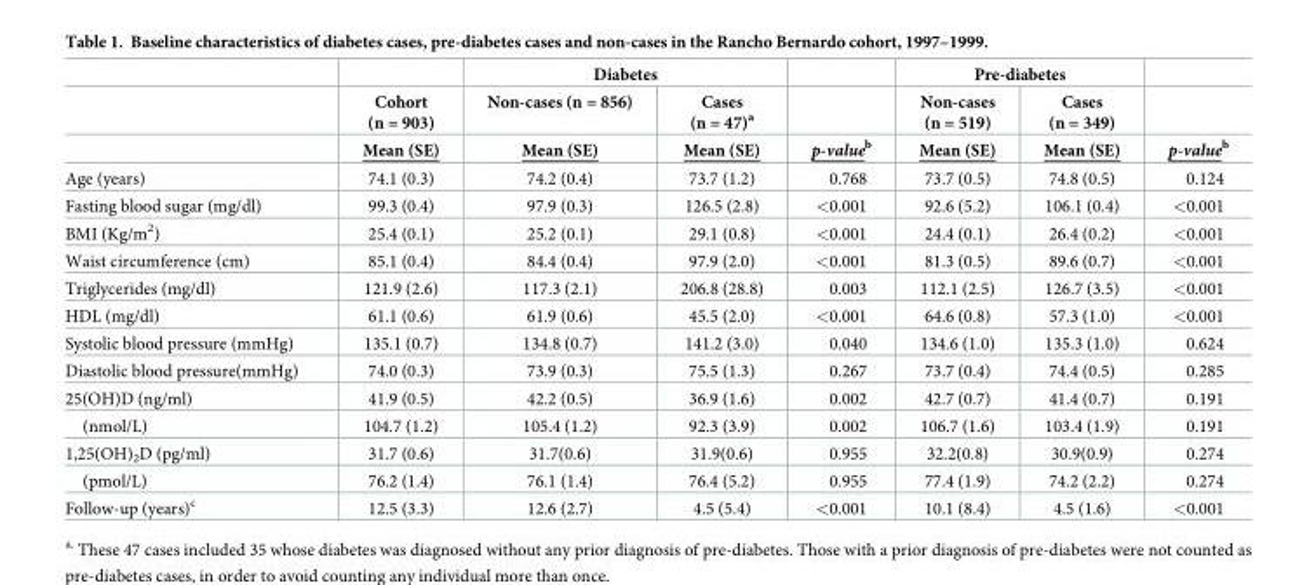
<table><thead><tr><td rowspan="3"></td><td rowspan="3">Cohort (n = 903) Mean (SE)</td><td colspan="2">Diabetes</td><td rowspan="3">p-value<sup>b</sup></td><td colspan="2">Pre-diabetes</td><td rowspan="3">p-value<sup>b</sup></td></tr><tr><td rowspan="2">Non-cases (n = 856) Mean (SE)</td><td rowspan="2">Cases (n = 47)<sup>a</sup> Mean (SE)</td><td rowspan="2">Non-cases (n = 519) Mean (SE)</td><td rowspan="2">Cases (n = 349) Mean (SE)</td></tr><tr></tr></thead><tbody><tr><td>Age (years)</td><td>74.1 (0.3)</td><td>74.2 (0.4)</td><td>73.7 (1.2)</td><td>0.768</td><td>73.7 (0.5)</td><td>74.8 (0.5)</td><td>0.124</td></tr><tr><td>Fasting blood sugar (mg/dl)</td><td>99.3 (0.4)</td><td>97.9 (0.3)</td><td>126.5 (2.8)</td><td>&lt;0.001</td><td>92.6 (5.2)</td><td>106.1 (0.4)</td><td>&lt;0.001</td></tr><tr><td>BMI (Kg/m<sup>2</sup>)</td><td>25.4 (0.1)</td><td>25.2 (0.1)</td><td>29.1 (0.8)</td><td>&lt;0.001</td><td>24.4 (0.1)</td><td>26.4 (0.2)</td><td>&lt;0.001</td></tr><tr><td>Waist circumference (cm)</td><td>85.1 (0.4)</td><td>84.4 (0.4)</td><td>97.9 (2.0)</td><td>&lt;0.001</td><td>81.3 (0.5)</td><td>89.6 (0.7)</td><td>&lt;0.001</td></tr><tr><td>Triglycerides (mg/dl)</td><td>121.9 (2.6)</td><td>117.3 (2.1)</td><td>206.8 (28.8)</td><td>0.003</td><td>112.1 (2.5)</td><td>126.7 (3.5)</td><td>&lt;0.001</td></tr><tr><td>HDL (mg/dl)</td><td>61.1 (0.6)</td><td>61.9 (0.6)</td><td>45.5 (2.0)</td><td>&lt;0.001</td><td>64.6 (0.8)</td><td>57.3 (1.0)</td><td>&lt;0.001</td></tr><tr><td>Systolic blood pressure (mmHg)</td><td>135.1 (0.7)</td><td>134.8 (0.7)</td><td>141.2 (3.0)</td><td>0.040</td><td>134.6 (1.0)</td><td>135.3 (1.0)</td><td>0.624</td></tr><tr><td>Diastolic blood pressure(mmHg)</td><td>74.0 (0.3)</td><td>73.9 (0.3)</td><td>75.5 (1.3)</td><td>0.267</td><td>73.7 (0.4)</td><td>74.4 (0.5)</td><td>0.285</td></tr><tr><td>25(OH)D (ng/ml)</td><td>41.9 (0.5)</td><td>42.2 (0.5)</td><td>36.9 (1.6)</td><td>0.002</td><td>42.7 (0.7)</td><td>41.4 (0.7)</td><td>0.191</td></tr><tr><td>(nmol/L)</td><td>104.7 (1.2)</td><td>105.4 (1.2)</td><td>92.3 (3.9)</td><td>0.002</td><td>106.7 (1.6)</td><td>103.4 (1.9)</td><td>0.191</td></tr><tr><td>1,25(OH)<sub>2</sub>D (pg/ml)</td><td>31.7 (0.6)</td><td>31.7(0.6)</td><td>31.9(0.6)</td><td>0.955</td><td>32.2(0.8)</td><td>30.9(0.9)</td><td>0.274</td></tr><tr><td>(pmol/L)</td><td>76.2 (1.4)</td><td>76.1 (1.4)</td><td>76.4 (5.2)</td><td>0.955</td><td>77.4 (1.9)</td><td>74.2 (2.2)</td><td>0.274</td></tr><tr><td>Follow-up (years)<sup>c</sup></td><td>12.5 (3.3)</td><td>12.6 (2.7)</td><td>4.5 (5.4)</td><td>&lt;0.001</td><td>10.1 (8.4)</td><td>4.5 (1.6)</td><td>&lt;0.001</td></tr></tbody></table>